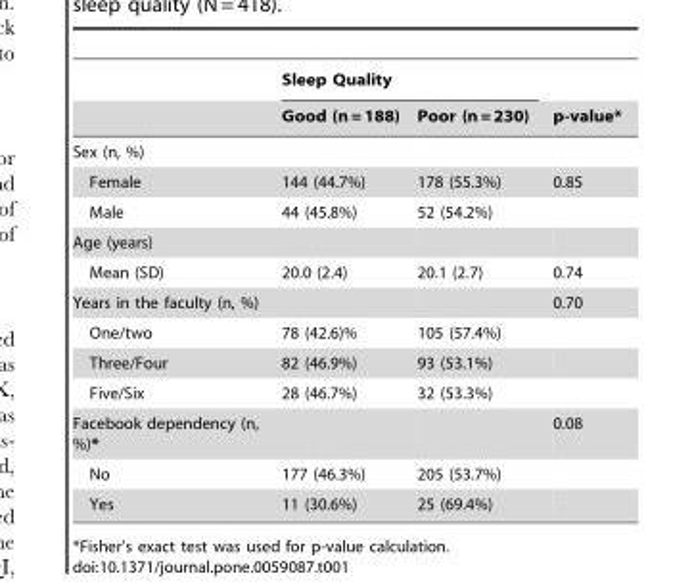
<table><thead><tr><td rowspan="2"></td><td colspan="2">Sleep Quality</td><td rowspan="2">p-value*</td></tr><tr><td>Good (n = 188)</td><td>Poor (n = 230)</td></tr></thead><tbody><tr><td colspan="4">Sex (n, %)</td></tr><tr><td>Female</td><td>144 (44.7%)</td><td>178 (55.3%)</td><td>0.85</td></tr><tr><td>Male</td><td>44 (45.8%)</td><td>52 (54.2%)</td><td></td></tr><tr><td colspan="4">Age (years)</td></tr><tr><td>Mean (SD)</td><td>20.0 (2.4)</td><td>20.1 (2.7)</td><td>0.74</td></tr><tr><td>Years in the faculty (n, %)</td><td></td><td></td><td>0.70</td></tr><tr><td>One/two</td><td>78 (42.6)%</td><td>105 (57.4%)</td><td></td></tr><tr><td>Three/Four</td><td>82 (46.9%)</td><td>93 (53.1%)</td><td></td></tr><tr><td>Five/Six</td><td>28 (46.7%)</td><td>32 (53.3%)</td><td></td></tr><tr><td>Facebook dependency (n, %)*</td><td></td><td></td><td>0.08</td></tr><tr><td>No</td><td>177 (46.3%)</td><td>205 (53.7%)</td><td></td></tr><tr><td>Yes</td><td>11 (30.6%)</td><td>25 (69.4%)</td><td></td></tr></tbody></table>